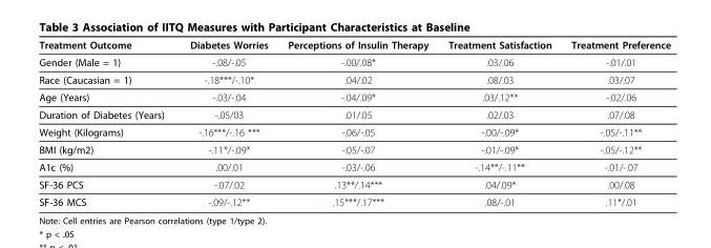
<table><thead><tr><td>Treatment Outcome</td><td>Diabetes Worries</td><td>Perceptions of Insulin Therapy</td><td>Treatment Satisfaction</td><td>Treatment Preference</td></tr></thead><tbody><tr><td>Gender (Male = 1)</td><td>-.08/-.05</td><td>-.00/.08*</td><td>.03/.06</td><td>-.01/.01</td></tr><tr><td>Race (Caucasian = 1)</td><td>-.18***/-.10*</td><td>.04/.02</td><td>.08/.03</td><td>.03/.07</td></tr><tr><td>Age (Years)</td><td>-.03/-.04</td><td>-.04/.09*</td><td>.03/.12**</td><td>-.02/.06</td></tr><tr><td>Duration of Diabetes (Years)</td><td>-.05/03</td><td>.01/.05</td><td>.02/.03</td><td>.07/.08</td></tr><tr><td>Weight (Kilograms)</td><td>-.16***/-.16 ***</td><td>-.06/-.05</td><td>-.00/-.09*</td><td>-.05/-.11**</td></tr><tr><td>BMI (kg/m2)</td><td>-.11*/-.09*</td><td>-.05/-.07</td><td>-.01/-.09*</td><td>-.05/-.12**</td></tr><tr><td>A1c (%)</td><td>.00/.01</td><td>-.03/-.06</td><td>-.14**/-.11**</td><td>-.01/-.07</td></tr><tr><td>SF-36 PCS</td><td>-.07/.02</td><td>.13**/.14***</td><td>.04/.09*</td><td>.00/.08</td></tr><tr><td>SF-36 MCS</td><td>-.09/-.12**</td><td>.15***/.17***</td><td>.08/-.01</td><td>.11*/.01</td></tr></tbody></table>